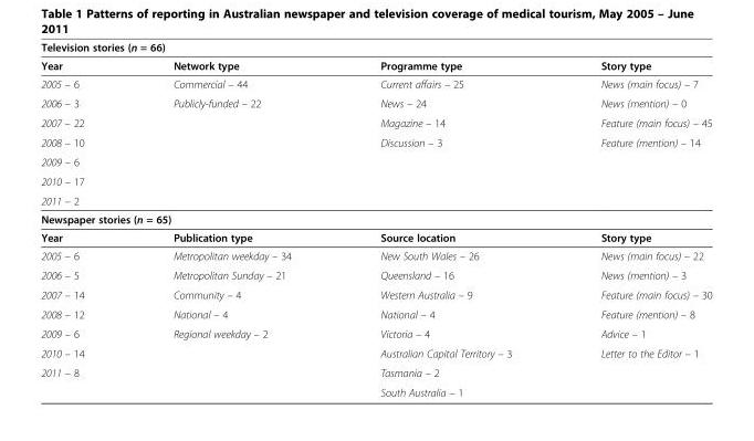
<table><tbody><tr><td colspan="4">Television stories (n = 66)</td></tr><tr><td>Year</td><td>Network type</td><td>Programme type</td><td>Story type</td></tr><tr><td>2005 – 6</td><td>Commercial – 44</td><td>Current affairs – 25</td><td>News (main focus) – 7</td></tr><tr><td>2006 – 3</td><td>Publicly-funded – 22</td><td>News – 24</td><td>News (mention) – 0</td></tr><tr><td>2007 – 22</td><td></td><td>Magazine – 14</td><td>Feature (main focus) – 45</td></tr><tr><td>2008 – 10</td><td></td><td>Discussion – 3</td><td>Feature (mention) – 14</td></tr><tr><td colspan="4">2009 – 6</td></tr><tr><td colspan="4">2010 – 17</td></tr><tr><td colspan="4">2011 – 2</td></tr><tr><td colspan="4">Newspaper stories (n = 65)</td></tr><tr><td>Year</td><td>Publication type</td><td>Source location</td><td>Story type</td></tr><tr><td>2005 – 6</td><td>Metropolitan weekday – 34</td><td>New South Wales – 26</td><td>News (main focus) – 22</td></tr><tr><td>2006 – 5</td><td>Metropolitan Sunday – 21</td><td>Queensland – 16</td><td>News (mention) – 3</td></tr><tr><td>2007 – 14</td><td>Community – 4</td><td>Western Australia – 9</td><td>Feature (main focus) – 30</td></tr><tr><td>2008 – 12</td><td>National – 4</td><td>National – 4</td><td>Feature (mention) – 8</td></tr><tr><td>2009 – 6</td><td>Regional weekday – 2</td><td>Victoria – 4</td><td>Advice – 1</td></tr><tr><td>2010 – 14</td><td></td><td>Australian Capital Territory – 3</td><td>Letter to the Editor – 1</td></tr><tr><td rowspan="2">2011 – 8</td><td></td><td>Tasmania – 2</td><td></td></tr><tr><td></td><td>South Australia – 1</td><td></td></tr></tbody></table>